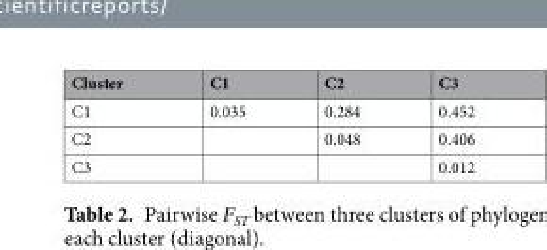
<table><thead><tr><td>Cluster</td><td>C1</td><td>C2</td><td>C3</td></tr></thead><tbody><tr><td>C1</td><td>0.035</td><td>0.284</td><td>0.452</td></tr><tr><td>C2</td><td></td><td>0.048</td><td>0.406</td></tr><tr><td>C3</td><td></td><td></td><td>0.012</td></tr></tbody></table>